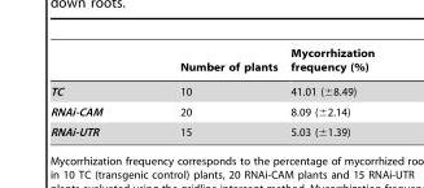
<table><thead><tr><td></td><td>Number of plants</td><td>Mycorrhization frequency (%)</td></tr></thead><tbody><tr><td>TC</td><td>10</td><td>41.01 (±8.49)</td></tr><tr><td>RNAi-CAM</td><td>20</td><td>8.09 (±2.14)</td></tr><tr><td>RNAi-UTR</td><td>15</td><td>5.03 (±1.39)</td></tr></tbody></table>